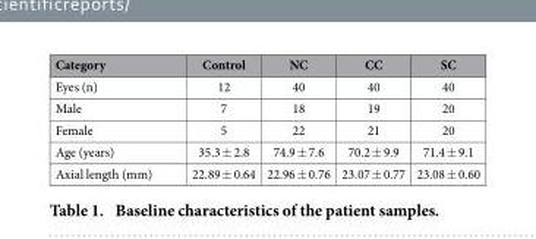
<table><thead><tr><td>Category</td><td>Control</td><td>NC</td><td>CC</td><td>SC</td></tr></thead><tbody><tr><td>Eyes (n)</td><td>12</td><td>40</td><td>40</td><td>40</td></tr><tr><td>Male</td><td>7</td><td>18</td><td>19</td><td>20</td></tr><tr><td>Female</td><td>5</td><td>22</td><td>21</td><td>20</td></tr><tr><td>Age (years)</td><td>35.3 ± 2.8</td><td>74.9 ± 7.6</td><td>70.2 ± 9.9</td><td>71.4 ± 9.1</td></tr><tr><td>Axial length (mm)</td><td>22.89 ± 0.64</td><td>22.96 ± 0.76</td><td>23.07 ± 0.77</td><td>23.08 ± 0.60</td></tr></tbody></table>